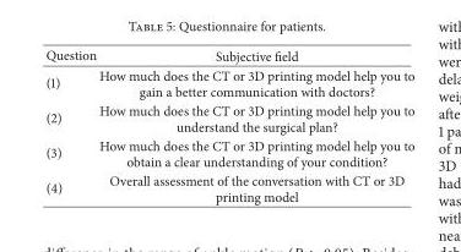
<table><thead><tr><td>Question</td><td>Subjective field</td></tr></thead><tbody><tr><td>(1)</td><td>How much does the CT or 3D printing model help you to gain a better communication with doctors?</td></tr><tr><td>(2)</td><td>How much does the CT or 3D printing model help you to understand the surgical plan?</td></tr><tr><td>(3)</td><td>How much does the CT or 3D printing model help you to obtain a clear understanding of your condition?</td></tr><tr><td>(4)</td><td>Overall assessment of the conversation with CT or 3D printing model</td></tr></tbody></table>